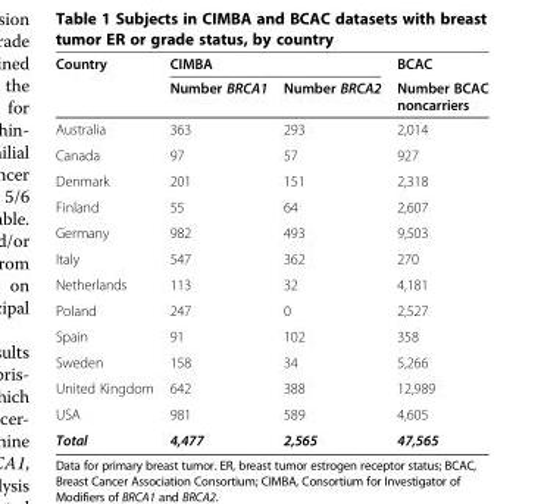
<table><thead><tr><td rowspan="2">Country</td><td colspan="2">CIMBA</td><td rowspan="2">BCAC Number BCAC noncarriers</td></tr><tr><td>Number BRCA1</td><td>Number BRCA2</td></tr></thead><tbody><tr><td>Australia</td><td>363</td><td>293</td><td>2,014</td></tr><tr><td>Canada</td><td>97</td><td>57</td><td>927</td></tr><tr><td>Denmark</td><td>201</td><td>151</td><td>2,318</td></tr><tr><td>Finland</td><td>55</td><td>64</td><td>2,607</td></tr><tr><td>Germany</td><td>982</td><td>493</td><td>9,503</td></tr><tr><td>Italy</td><td>547</td><td>362</td><td>270</td></tr><tr><td>Netherlands</td><td>113</td><td>32</td><td>4,181</td></tr><tr><td>Poland</td><td>247</td><td>0</td><td>2,527</td></tr><tr><td>Spain</td><td>91</td><td>102</td><td>358</td></tr><tr><td>Sweden</td><td>158</td><td>34</td><td>5,266</td></tr><tr><td>United Kingdom</td><td>642</td><td>388</td><td>12,989</td></tr><tr><td>USA</td><td>981</td><td>589</td><td>4,605</td></tr><tr><td>Total</td><td>4,477</td><td>2,565</td><td>47,565</td></tr></tbody></table>